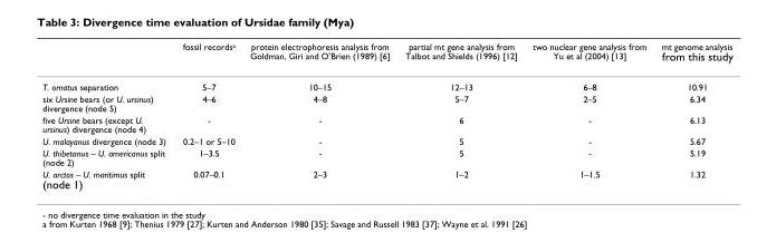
<table><thead><tr><td></td><td>fossil records<sup>a</sup></td><td>protein electrophoresis analysis from Goldman, Giri and O&#x27;Brien (1989) [6]</td><td>partial mt gene analysis from Talbot and Shields (1996) [12]</td><td>two nuclear gene analysis from Yu et al (2004) [13]</td><td>mt genome analysis from this study</td></tr></thead><tbody><tr><td>T. ornatus separation</td><td>5–7</td><td>10–15</td><td>12–13</td><td>6–8</td><td>10.91</td></tr><tr><td>six Ursine bears (or U. ursinus) divergence (node 5)</td><td>4–6</td><td>4–8</td><td>5–7</td><td>2–5</td><td>6.34</td></tr><tr><td>five Ursine bears (except U. ursinus) divergence (node 4)</td><td>-</td><td>-</td><td>6</td><td>-</td><td>6.13</td></tr><tr><td>U. malayanus divergence (node 3)</td><td>0.2–1 or 5–10</td><td>-</td><td>5</td><td>-</td><td>5.67</td></tr><tr><td>U. thibetanus – U. americanus split (node 2)</td><td>1–3.5</td><td>-</td><td>5</td><td>-</td><td>5.19</td></tr><tr><td>U. arctos – U. maritimus split (node 1)</td><td>0.07–0.1</td><td>2–3</td><td>1–2</td><td>1–1.5</td><td>1.32</td></tr></tbody></table>